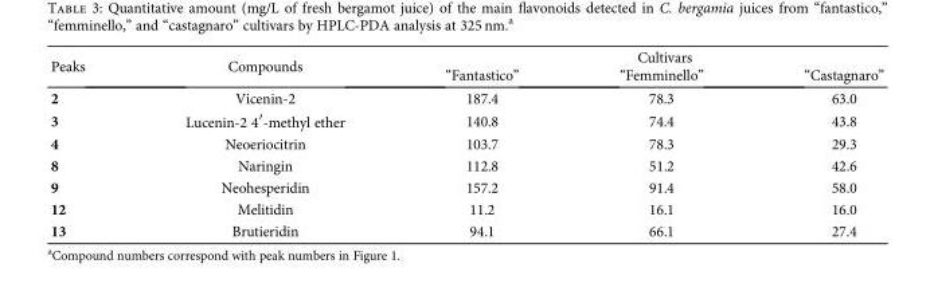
<table><thead><tr><td rowspan="2">Peaks</td><td rowspan="2">Compounds</td><td colspan="3">Cultivars</td></tr><tr><td>“Fantastico”</td><td>“Femminello”</td><td>“Castagnaro”</td></tr></thead><tbody><tr><td>2</td><td>Vicenin-2</td><td>187.4</td><td>78.3</td><td>63.0</td></tr><tr><td>3</td><td>Lucenin-2 4′-methyl ether</td><td>140.8</td><td>74.4</td><td>43.8</td></tr><tr><td>4</td><td>Neoeriocitrin</td><td>103.7</td><td>78.3</td><td>29.3</td></tr><tr><td>8</td><td>Naringin</td><td>112.8</td><td>51.2</td><td>42.6</td></tr><tr><td>9</td><td>Neohesperidin</td><td>157.2</td><td>91.4</td><td>58.0</td></tr><tr><td>12</td><td>Melitidin</td><td>11.2</td><td>16.1</td><td>16.0</td></tr><tr><td>13</td><td>Brutieridin</td><td>94.1</td><td>66.1</td><td>27.4</td></tr></tbody></table>